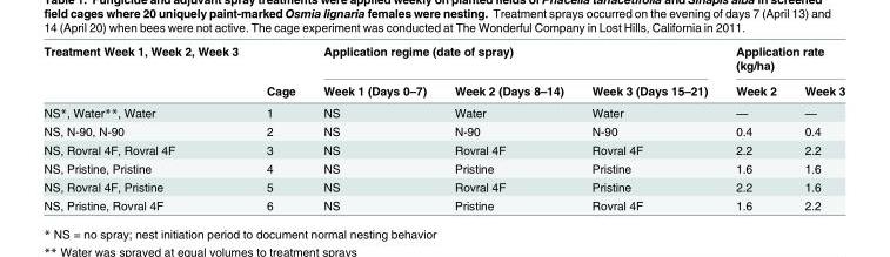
<table><thead><tr><td rowspan="2">Treatment Week 1, Week 2, Week 3</td><td rowspan="2">Cage</td><td colspan="3">Application regime (date of spray)</td><td colspan="2">Application rate (kg/ha)</td></tr><tr><td>Week 1 (Days 0–7)</td><td>Week 2 (Days 8–14)</td><td>Week 3 (Days 15–21)</td><td>Week 2</td><td>Week 3</td></tr></thead><tbody><tr><td>NS*, Water**, Water</td><td>1</td><td>NS</td><td>Water</td><td>Water</td><td>—</td><td>—</td></tr><tr><td>NS, N-90, N-90</td><td>2</td><td>NS</td><td>N-90</td><td>N-90</td><td>0.4</td><td>0.4</td></tr><tr><td>NS, Rovral 4F, Rovral 4F</td><td>3</td><td>NS</td><td>Rovral 4F</td><td>Rovral 4F</td><td>2.2</td><td>2.2</td></tr><tr><td>NS, Pristine, Pristine</td><td>4</td><td>NS</td><td>Pristine</td><td>Pristine</td><td>1.6</td><td>1.6</td></tr><tr><td>NS, Rovral 4F, Pristine</td><td>5</td><td>NS</td><td>Rovral 4F</td><td>Pristine</td><td>2.2</td><td>1.6</td></tr><tr><td>NS, Pristine, Rovral 4F</td><td>6</td><td>NS</td><td>Pristine</td><td>Rovral 4F</td><td>1.6</td><td>2.2</td></tr></tbody></table>